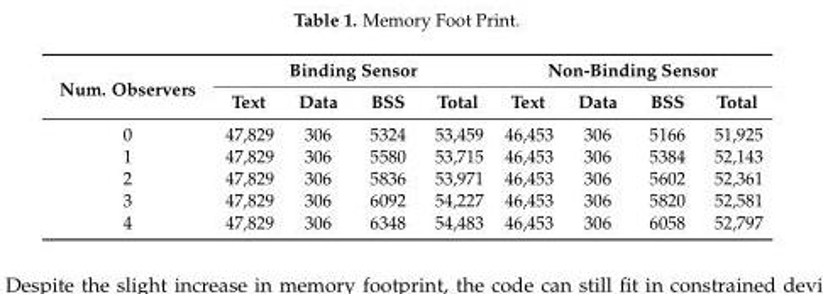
<table><thead><tr><td rowspan="2">Num. Observers</td><td colspan="4">Binding Sensor</td><td colspan="4">Non-Binding Sensor</td></tr><tr><td>Text</td><td>Data</td><td>BSS</td><td>Total</td><td>Text</td><td>Data</td><td>BSS</td><td>Total</td></tr></thead><tbody><tr><td>0</td><td>47,829</td><td>306</td><td>5324</td><td>53,459</td><td>46,453</td><td>306</td><td>5166</td><td>51,925</td></tr><tr><td>1</td><td>47,829</td><td>306</td><td>5580</td><td>53,715</td><td>46,453</td><td>306</td><td>5384</td><td>52,143</td></tr><tr><td>2</td><td>47,829</td><td>306</td><td>5836</td><td>53,971</td><td>46,453</td><td>306</td><td>5602</td><td>52,361</td></tr><tr><td>3</td><td>47,829</td><td>306</td><td>6092</td><td>54,227</td><td>46,453</td><td>306</td><td>5820</td><td>52,581</td></tr><tr><td>4</td><td>47,829</td><td>306</td><td>6348</td><td>54,483</td><td>46,453</td><td>306</td><td>6058</td><td>52,797</td></tr></tbody></table>